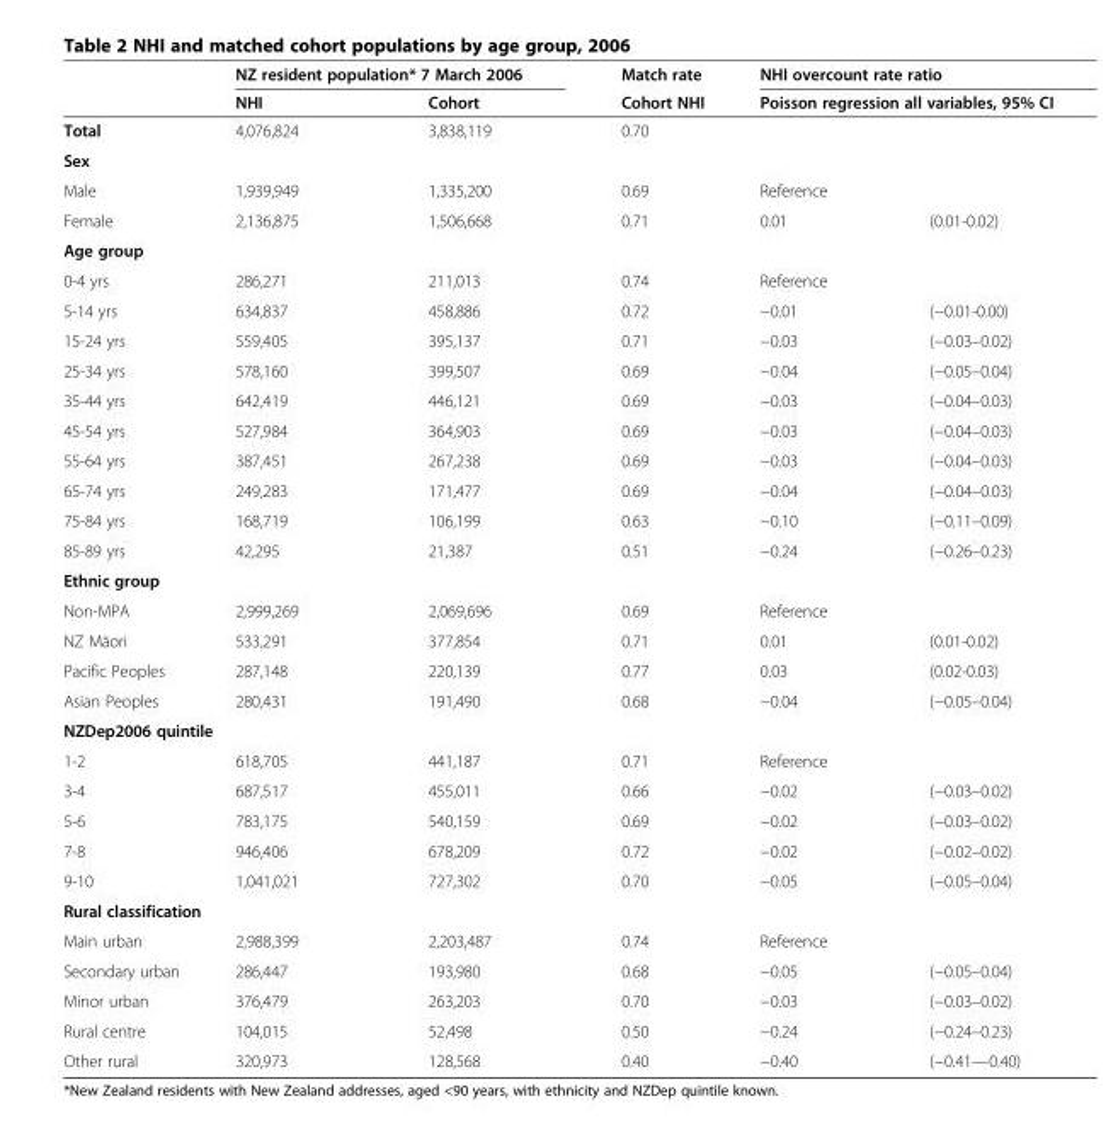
<table><thead><tr><td rowspan="3">Total</td><td colspan="2">NZ resident population* 7 March 2006</td><td rowspan="3">Match rate Cohort NHI 0.70</td><td rowspan="2" colspan="2">NHI overcount rate ratio Poisson regression all variables, 95% CI</td></tr><tr><td rowspan="2">NHI 4,076,824</td><td rowspan="2">Cohort 3,838,119</td></tr><tr><td></td><td></td></tr></thead><tbody><tr><td colspan="6">Sex</td></tr><tr><td>Male</td><td>1,939,949</td><td>1,335,200</td><td>0.69</td><td colspan="2">Reference</td></tr><tr><td>Female</td><td>2,136,875</td><td>1,506,668</td><td>0.71</td><td>0.01</td><td>(0.01-0.02)</td></tr><tr><td colspan="6">Age group</td></tr><tr><td>0-4 yrs</td><td>286,271</td><td>211,013</td><td>0.74</td><td colspan="2">Reference</td></tr><tr><td>5-14 yrs</td><td>634,837</td><td>458,886</td><td>0.72</td><td>−0.01</td><td>(−0.01-0.00)</td></tr><tr><td>15-24 yrs</td><td>559,405</td><td>395,137</td><td>0.71</td><td>−0.03</td><td>(−0.03–0.02)</td></tr><tr><td>25-34 yrs</td><td>578,160</td><td>399,507</td><td>0.69</td><td>−0.04</td><td>(−0.05–0.04)</td></tr><tr><td>35-44 yrs</td><td>642,419</td><td>446,121</td><td>0.69</td><td>−0.03</td><td>(−0.04–0.03)</td></tr><tr><td>45-54 yrs</td><td>527,984</td><td>364,903</td><td>0.69</td><td>−0.03</td><td>(−0.04–0.03)</td></tr><tr><td>55-64 yrs</td><td>387,451</td><td>267,238</td><td>0.69</td><td>−0.03</td><td>(−0.04–0.03)</td></tr><tr><td>65-74 yrs</td><td>249,283</td><td>171,477</td><td>0.69</td><td>−0.04</td><td>(−0.04–0.03)</td></tr><tr><td>75-84 yrs</td><td>168,719</td><td>106,199</td><td>0.63</td><td>−0.10</td><td>(−0.11–0.09)</td></tr><tr><td>85-89 yrs</td><td>42,295</td><td>21,387</td><td>0.51</td><td>−0.24</td><td>(−0.26–0.23)</td></tr><tr><td colspan="6">Ethnic group</td></tr><tr><td>Non-MPA</td><td>2,999,269</td><td>2,069,696</td><td>0.69</td><td colspan="2">Reference</td></tr><tr><td>NZ Māori</td><td>533,291</td><td>377,854</td><td>0.71</td><td>0.01</td><td>(0.01-0.02)</td></tr><tr><td>Pacific Peoples</td><td>287,148</td><td>220,139</td><td>0.77</td><td>0.03</td><td>(0.02-0.03)</td></tr><tr><td>Asian Peoples</td><td>280,431</td><td>191,490</td><td>0.68</td><td>−0.04</td><td>(−0.05–0.04)</td></tr><tr><td colspan="6">NZDep2006 quintile</td></tr><tr><td>1-2</td><td>618,705</td><td>441,187</td><td>0.71</td><td colspan="2">Reference</td></tr><tr><td>3-4</td><td>687,517</td><td>455,011</td><td>0.66</td><td>−0.02</td><td>(−0.03–0.02)</td></tr><tr><td>5-6</td><td>783,175</td><td>540,159</td><td>0.69</td><td>−0.02</td><td>(−0.03–0.02)</td></tr><tr><td>7-8</td><td>946,406</td><td>678,209</td><td>0.72</td><td>−0.02</td><td>(−0.02–0.02)</td></tr><tr><td>9-10</td><td>1,041,021</td><td>727,302</td><td>0.70</td><td>−0.05</td><td>(−0.05–0.04)</td></tr><tr><td colspan="6">Rural classification</td></tr><tr><td>Main urban</td><td>2,988,399</td><td>2,203,487</td><td>0.74</td><td colspan="2">Reference</td></tr><tr><td>Secondary urban</td><td>286,447</td><td>193,980</td><td>0.68</td><td>−0.05</td><td>(−0.05–0.04)</td></tr><tr><td>Minor urban</td><td>376,479</td><td>263,203</td><td>0.70</td><td>−0.03</td><td>(−0.03–0.02)</td></tr><tr><td>Rural centre</td><td>104,015</td><td>52,498</td><td>0.50</td><td>−0.24</td><td>(−0.24–0.23)</td></tr><tr><td>Other rural</td><td>320,973</td><td>128,568</td><td>0.40</td><td>−0.40</td><td>(−0.41—0.40)</td></tr></tbody></table>